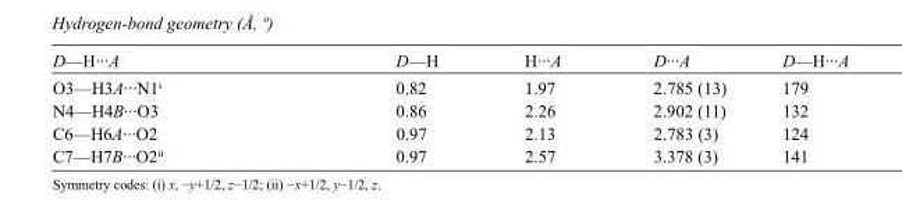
<table><tbody><tr><td>D—H···A</td><td>D—H</td><td>H···A</td><td>D···A</td><td>D—H···A</td></tr><tr><td>O3—H3A···N1<sup>i</sup></td><td>0.82</td><td>1.97</td><td>2.785 (13)</td><td>179</td></tr><tr><td>N4—H4B···O3</td><td>0.86</td><td>2.26</td><td>2.902 (11)</td><td>132</td></tr><tr><td>C6—H6A···O2</td><td>0.97</td><td>2.13</td><td>2.783 (3)</td><td>124</td></tr><tr><td>C7—H7B···O2<sup>ii</sup></td><td>0.97</td><td>2.57</td><td>3.378 (3)</td><td>141</td></tr></tbody></table>